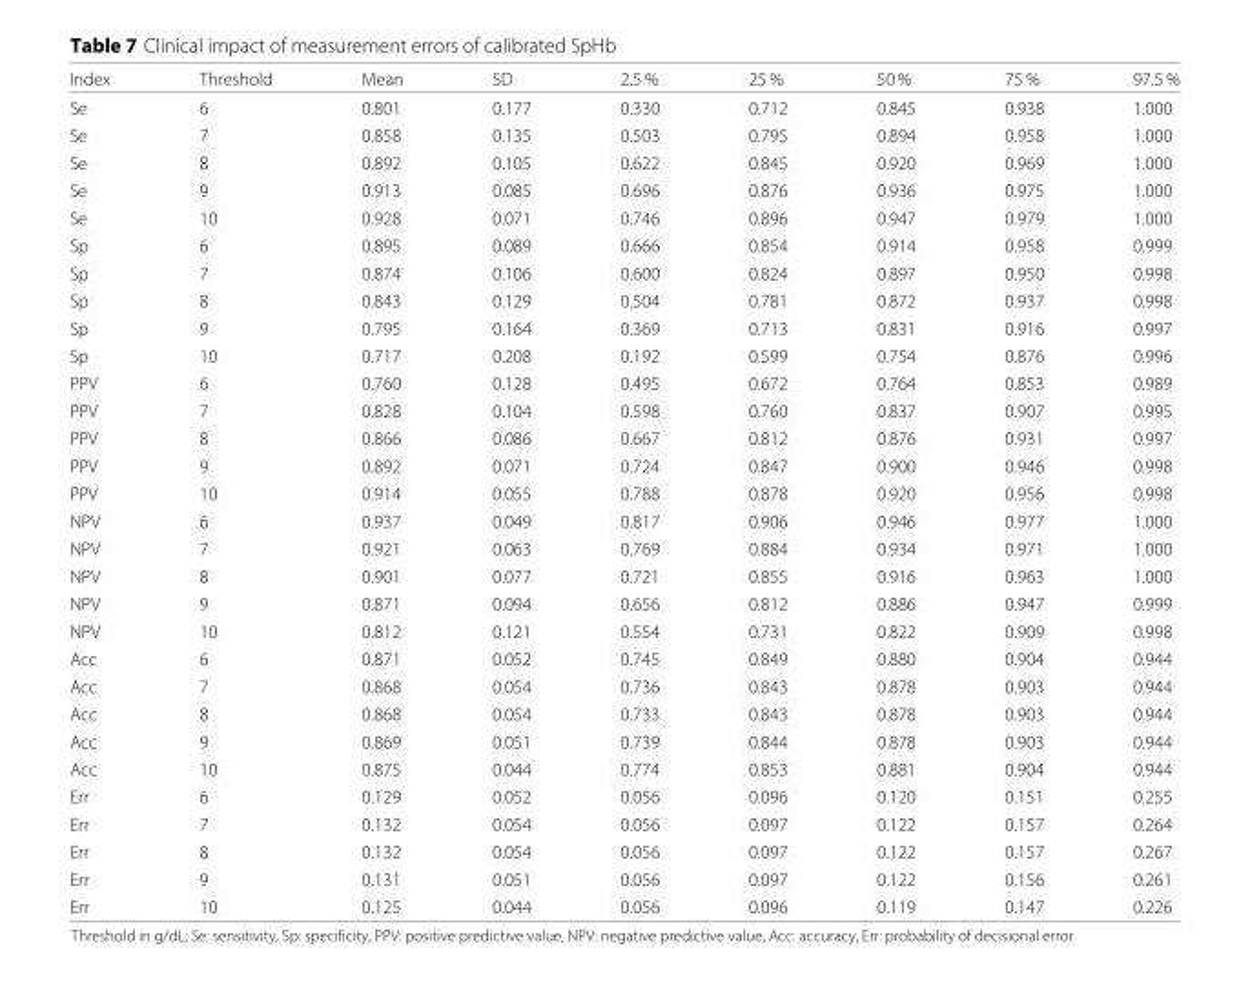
<table><thead><tr><td>Index</td><td>Threshold</td><td>Mean</td><td>SD</td><td>2.5 %</td><td>25 %</td><td>50 %</td><td>75 %</td><td>97.5 %</td></tr></thead><tbody><tr><td>Se</td><td>6</td><td>0.801</td><td>0.177</td><td>0.330</td><td>0.712</td><td>0.845</td><td>0.938</td><td>1.000</td></tr><tr><td>Se</td><td>7</td><td>0.858</td><td>0.135</td><td>0.503</td><td>0.795</td><td>0.894</td><td>0.958</td><td>1.000</td></tr><tr><td>Se</td><td>8</td><td>0.892</td><td>0.105</td><td>0.622</td><td>0.845</td><td>0.920</td><td>0.969</td><td>1.000</td></tr><tr><td>Se</td><td>9</td><td>0.913</td><td>0.085</td><td>0.696</td><td>0.876</td><td>0.936</td><td>0.975</td><td>1.000</td></tr><tr><td>Se</td><td>10</td><td>0.928</td><td>0.071</td><td>0.746</td><td>0.896</td><td>0.947</td><td>0.979</td><td>1.000</td></tr><tr><td>Sp</td><td>6</td><td>0.895</td><td>0.089</td><td>0.666</td><td>0.854</td><td>0.914</td><td>0.958</td><td>0.999</td></tr><tr><td>Sp</td><td>7</td><td>0.874</td><td>0.106</td><td>0.600</td><td>0.824</td><td>0.897</td><td>0.950</td><td>0.998</td></tr><tr><td>Sp</td><td>8</td><td>0.843</td><td>0.129</td><td>0.504</td><td>0.781</td><td>0.872</td><td>0.937</td><td>0.998</td></tr><tr><td>Sp</td><td>9</td><td>0.795</td><td>0.164</td><td>0.369</td><td>0.713</td><td>0.831</td><td>0.916</td><td>0.997</td></tr><tr><td>Sp</td><td>10</td><td>0.717</td><td>0.208</td><td>0.192</td><td>0.599</td><td>0.754</td><td>0.876</td><td>0.996</td></tr><tr><td>PPV</td><td>6</td><td>0.760</td><td>0.128</td><td>0.495</td><td>0.672</td><td>0.764</td><td>0.853</td><td>0.989</td></tr><tr><td>PPV</td><td>7</td><td>0.828</td><td>0.104</td><td>0.598</td><td>0.760</td><td>0.837</td><td>0.907</td><td>0.995</td></tr><tr><td>PPV</td><td>8</td><td>0.866</td><td>0.086</td><td>0.667</td><td>0.812</td><td>0.876</td><td>0.931</td><td>0.997</td></tr><tr><td>PPV</td><td>9</td><td>0.892</td><td>0.071</td><td>0.724</td><td>0.847</td><td>0.900</td><td>0.946</td><td>0.998</td></tr><tr><td>PPV</td><td>10</td><td>0.914</td><td>0.055</td><td>0.788</td><td>0.878</td><td>0.920</td><td>0.956</td><td>0.998</td></tr><tr><td>NPV</td><td>6</td><td>0.937</td><td>0.049</td><td>0.817</td><td>0.906</td><td>0.946</td><td>0.977</td><td>1.000</td></tr><tr><td>NPV</td><td>7</td><td>0.921</td><td>0.063</td><td>0.769</td><td>0.884</td><td>0.934</td><td>0.971</td><td>1.000</td></tr><tr><td>NPV</td><td>8</td><td>0.901</td><td>0.077</td><td>0.721</td><td>0.855</td><td>0.916</td><td>0.963</td><td>1.000</td></tr><tr><td>NPV</td><td>9</td><td>0.871</td><td>0.094</td><td>0.656</td><td>0.812</td><td>0.886</td><td>0.947</td><td>0.999</td></tr><tr><td>NPV</td><td>10</td><td>0.812</td><td>0.121</td><td>0.554</td><td>0.731</td><td>0.822</td><td>0.909</td><td>0.998</td></tr><tr><td>Acc</td><td>6</td><td>0.871</td><td>0.052</td><td>0.745</td><td>0.849</td><td>0.880</td><td>0.904</td><td>0.944</td></tr><tr><td>Acc</td><td>7</td><td>0.868</td><td>0.054</td><td>0.736</td><td>0.843</td><td>0.878</td><td>0.903</td><td>0.944</td></tr><tr><td>Acc</td><td>8</td><td>0.868</td><td>0.054</td><td>0.733</td><td>0.843</td><td>0.878</td><td>0.903</td><td>0.944</td></tr><tr><td>Acc</td><td>9</td><td>0.869</td><td>0.051</td><td>0.739</td><td>0.844</td><td>0.878</td><td>0.903</td><td>0.944</td></tr><tr><td>Acc</td><td>10</td><td>0.875</td><td>0.044</td><td>0.774</td><td>0.853</td><td>0.881</td><td>0.904</td><td>0.944</td></tr><tr><td>Err</td><td>6</td><td>0.129</td><td>0.052</td><td>0.056</td><td>0.096</td><td>0.120</td><td>0.151</td><td>0.255</td></tr><tr><td>Err</td><td>7</td><td>0.132</td><td>0.054</td><td>0.056</td><td>0.097</td><td>0.122</td><td>0.157</td><td>0.264</td></tr><tr><td>Err</td><td>8</td><td>0.132</td><td>0.054</td><td>0.056</td><td>0.097</td><td>0.122</td><td>0.157</td><td>0.267</td></tr><tr><td>Err</td><td>9</td><td>0.131</td><td>0.051</td><td>0.056</td><td>0.097</td><td>0.122</td><td>0.156</td><td>0.261</td></tr><tr><td>Err</td><td>10</td><td>0.125</td><td>0.044</td><td>0.056</td><td>0.096</td><td>0.119</td><td>0.147</td><td>0.226</td></tr></tbody></table>